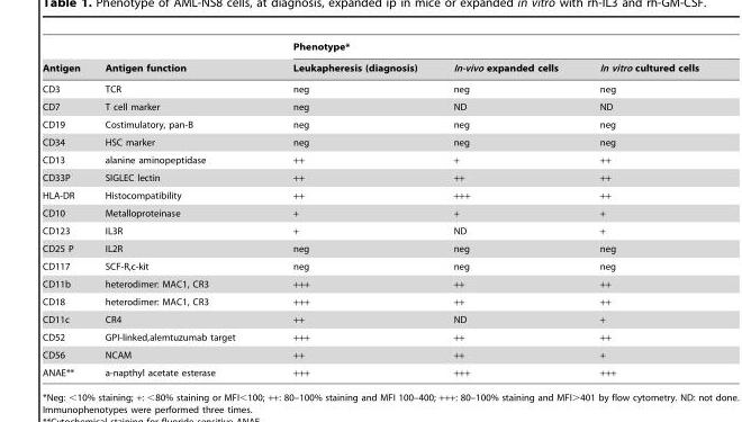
<table><thead><tr><td rowspan="2">Antigen</td><td rowspan="2">Antigen function</td><td colspan="3">Phenotype*</td></tr><tr><td>Leukapheresis (diagnosis)</td><td>In-vivo expanded cells</td><td>In vitro cultured cells</td></tr></thead><tbody><tr><td>CD3</td><td>TCR</td><td>neg</td><td>neg</td><td>neg</td></tr><tr><td>CD7</td><td>T cell marker</td><td>neg</td><td>ND</td><td>ND</td></tr><tr><td>CD19</td><td>Costimulatory, pan-B</td><td>neg</td><td>neg</td><td>neg</td></tr><tr><td>CD34</td><td>HSC marker</td><td>neg</td><td>neg</td><td>neg</td></tr><tr><td>CD13</td><td>alanine aminopeptidase</td><td>++</td><td>+</td><td>++</td></tr><tr><td>CD33P</td><td>SIGLEC lectin</td><td>++</td><td>++</td><td>++</td></tr><tr><td>HLA-DR</td><td>Histocompatibility</td><td>++</td><td>+++</td><td>++</td></tr><tr><td>CD10</td><td>Metalloproteinase</td><td>+</td><td>+</td><td>+</td></tr><tr><td>CD123</td><td>IL3R</td><td>+</td><td>ND</td><td>+</td></tr><tr><td>CD25 P</td><td>IL2R</td><td>neg</td><td>neg</td><td>neg</td></tr><tr><td>CD117</td><td>SCF-R,c-kit</td><td>neg</td><td>neg</td><td>neg</td></tr><tr><td>CD11b</td><td>heterodimer: MAC1, CR3</td><td>+++</td><td>++</td><td>++</td></tr><tr><td>CD18</td><td>heterodimer: MAC1, CR3</td><td>+++</td><td>++</td><td>++</td></tr><tr><td>CD11c</td><td>CR4</td><td>++</td><td>ND</td><td>+</td></tr><tr><td>CD52</td><td>GPI-linked,alemtuzumab target</td><td>+++</td><td>++</td><td>++</td></tr><tr><td>CD56</td><td>NCAM</td><td>++</td><td>++</td><td>+</td></tr><tr><td>ANAE**</td><td>a-napthyl acetate esterase</td><td>+++</td><td>+++</td><td>+++</td></tr></tbody></table>